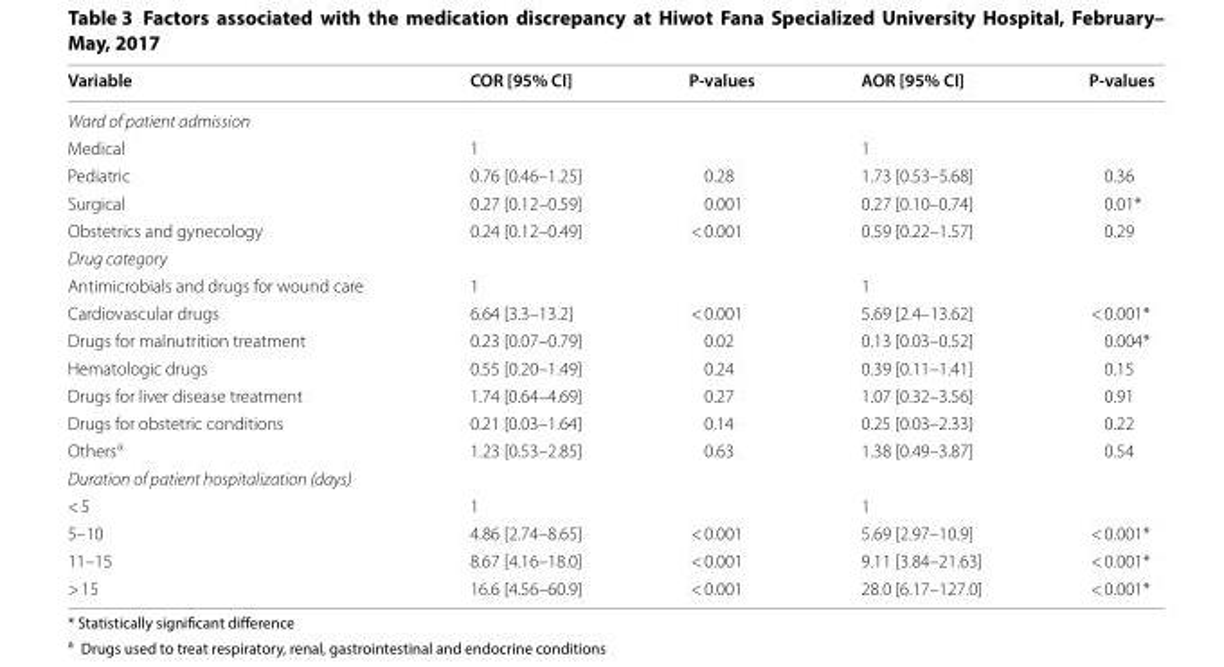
<table><thead><tr><td>Variable</td><td>COR [95% CI]</td><td>P-values</td><td>AOR [95% CI]</td><td>P-values</td></tr></thead><tbody><tr><td colspan="5">Ward of patient admission</td></tr><tr><td>Medical</td><td>1</td><td></td><td>1</td><td></td></tr><tr><td>Pediatric</td><td>0.76 [0.46–1.25]</td><td>0.28</td><td>1.73 [0.53–5.68]</td><td>0.36</td></tr><tr><td>Surgical</td><td>0.27 [0.12–0.59]</td><td>0.001</td><td>0.27 [0.10–0.74]</td><td>0.01*</td></tr><tr><td>Obstetrics and gynecology</td><td>0.24 [0.12–0.49]</td><td>&lt; 0.001</td><td>0.59 [0.22–1.57]</td><td>0.29</td></tr><tr><td colspan="5">Drug category</td></tr><tr><td>Antimicrobials and drugs for wound care</td><td>1</td><td></td><td>1</td><td></td></tr><tr><td>Cardiovascular drugs</td><td>6.64 [3.3–13.2]</td><td>&lt; 0.001</td><td>5.69 [2.4–13.62]</td><td>&lt; 0.001*</td></tr><tr><td>Drugs for malnutrition treatment</td><td>0.23 [0.07–0.79]</td><td>0.02</td><td>0.13 [0.03–0.52]</td><td>0.004*</td></tr><tr><td>Hematologic drugs</td><td>0.55 [0.20–1.49]</td><td>0.24</td><td>0.39 [0.11–1.41]</td><td>0.15</td></tr><tr><td>Drugs for liver disease treatment</td><td>1.74 [0.64–4.69]</td><td>0.27</td><td>1.07 [0.32–3.56]</td><td>0.91</td></tr><tr><td>Drugs for obstetric conditions</td><td>0.21 [0.03–1.64]</td><td>0.14</td><td>0.25 [0.03–2.33]</td><td>0.22</td></tr><tr><td>Others<sup>a</sup></td><td>1.23 [0.53–2.85]</td><td>0.63</td><td>1.38 [0.49–3.87]</td><td>0.54</td></tr><tr><td colspan="5">Duration of patient hospitalization (days)</td></tr><tr><td>&lt; 5</td><td>1</td><td></td><td>1</td><td></td></tr><tr><td>5–10</td><td>4.86 [2.74–8.65]</td><td>&lt; 0.001</td><td>5.69 [2.97–10.9]</td><td>&lt; 0.001*</td></tr><tr><td>11–15</td><td>8.67 [4.16–18.0]</td><td>&lt; 0.001</td><td>9.11 [3.84–21.63]</td><td>&lt; 0.001*</td></tr><tr><td>&gt; 15</td><td>16.6 [4.56–60.9]</td><td>&lt; 0.001</td><td>28.0 [6.17–127.0]</td><td>&lt; 0.001*</td></tr></tbody></table>